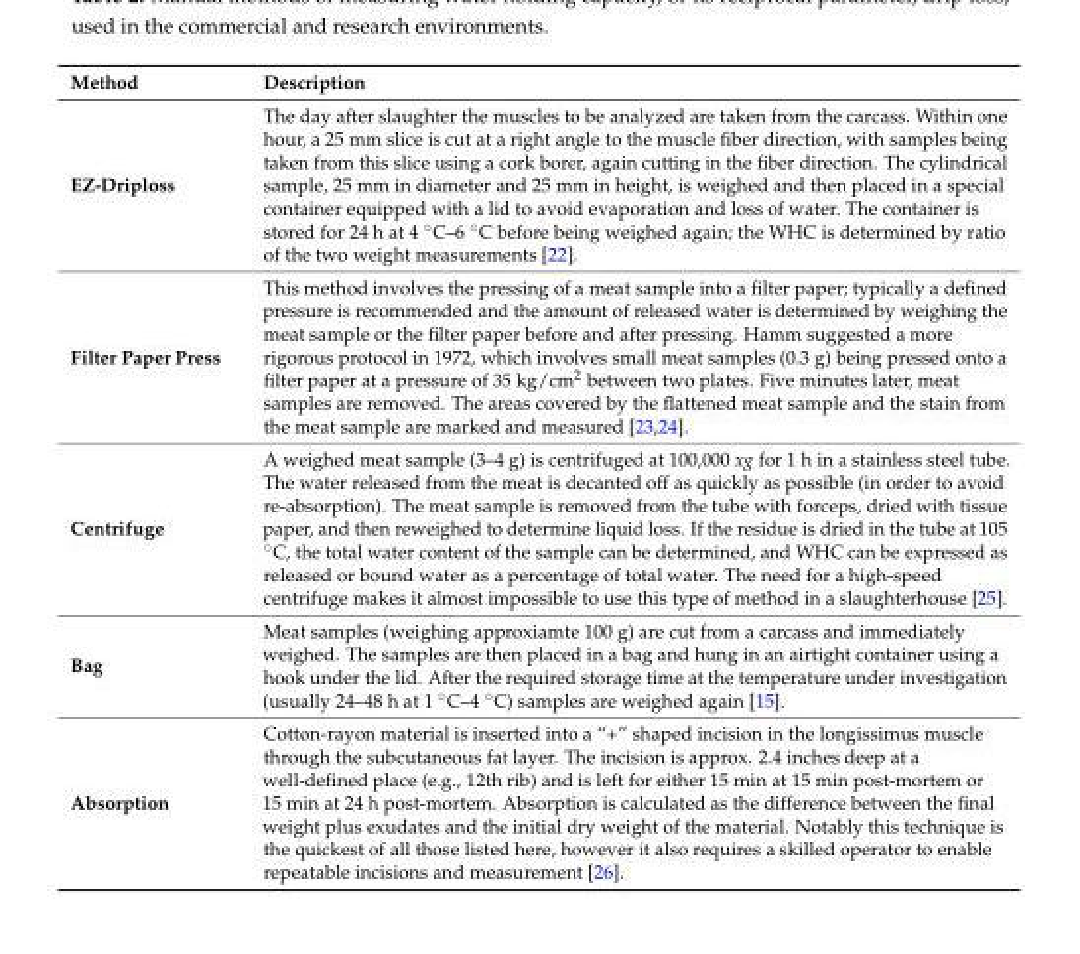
<table><thead><tr><td>Method</td><td>Description</td></tr></thead><tbody><tr><td>EZ-Driploss</td><td>The day after slaughter the muscles to be analyzed are taken from the carcass. Within one hour, a 25 mm slice is cut at a right angle to the muscle fiber direction, with samples being taken from this slice using a cork borer, again cutting in the fiber direction. The cylindrical sample, 25 mm in diameter and 25 mm in height, is weighed and then placed in a special container equipped with a lid to avoid evaporation and loss of water. The container is stored for 24 h at 4 ˝C–6 ˝C before being weighed again; the WHC is determined by ratio of the two weight measurements [22].</td></tr><tr><td>Filter Paper Press</td><td>This method involves the pressing of a meat sample into a filter paper; typically a defined pressure is recommended and the amount of released water is determined by weighing the meat sample or the filter paper before and after pressing. Hamm suggested a more rigorous protocol in 1972, which involves small meat samples (0.3 g) being pressed onto a filter paper at a pressure of 35 kg/cm<sup>2</sup> between two plates. Five minutes later, meat samples are removed. The areas covered by the flattened meat sample and the stain from the meat sample are marked and measured [23,24].</td></tr><tr><td>Centrifuge</td><td>A weighed meat sample (3–4 g) is centrifuged at 100,000 xg for 1 h in a stainless steel tube. The water released from the meat is decanted off as quickly as possible (in order to avoid re-absorption). The meat sample is removed from the tube with forceps, dried with tissue paper, and then reweighed to determine liquid loss. If the residue is dried in the tube at 105 ˝C, the total water content of the sample can be determined, and WHC can be expressed as released or bound water as a percentage of total water. The need for a high-speed centrifuge makes it almost impossible to use this type of method in a slaughterhouse [25].</td></tr><tr><td>Bag</td><td>Meat samples (weighing approxiamte 100 g) are cut from a carcass and immediately weighed. The samples are then placed in a bag and hung in an airtight container using a hook under the lid. After the required storage time at the temperature under investigation (usually 24–48 h at 1 ˝C–4 ˝C) samples are weighed again [15].</td></tr><tr><td>Absorption</td><td>Cotton-rayon material is inserted into a “+” shaped incision in the longissimus muscle through the subcutaneous fat layer. The incision is approx. 2.4 inches deep at a well-defined place (e.g., 12th rib) and is left for either 15 min at 15 min post-mortem or 15 min at 24 h post-mortem. Absorption is calculated as the difference between the final weight plus exudates and the initial dry weight of the material. Notably this technique is the quickest of all those listed here, however it also requires a skilled operator to enable repeatable incisions and measurement [26].</td></tr></tbody></table>